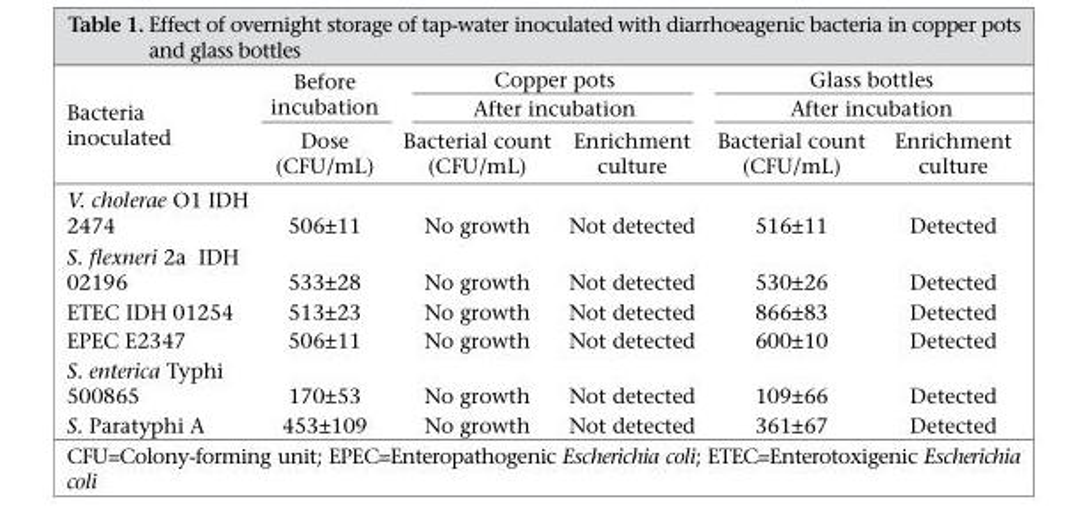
<table><thead><tr><td rowspan="3">Bacteria inoculated</td><td rowspan="3">Before incubation Dose (CFU/mL)</td><td rowspan="2" colspan="2">Copper pots After incubation</td><td rowspan="2" colspan="2">Glass bottles After incubation</td></tr><tr></tr><tr><td>Bacterial count (CFU/mL)</td><td>Enrichment culture</td><td>Bacterial count (CFU/mL)</td><td>Enrichment culture</td></tr></thead><tbody><tr><td>V. cholerae O1 IDH 2474</td><td>506±11</td><td>No growth</td><td>Not detected</td><td>516±11</td><td>Detected</td></tr><tr><td>S. flexneri 2a IDH 02196</td><td>533±28</td><td>No growth</td><td>Not detected</td><td>530±26</td><td>Detected</td></tr><tr><td>ETEC IDH 01254</td><td>513±23</td><td>No growth</td><td>Not detected</td><td>866±83</td><td>Detected</td></tr><tr><td>EPEC E2347</td><td>506±11</td><td>No growth</td><td>Not detected</td><td>600±10</td><td>Detected</td></tr><tr><td>S. enterica Typhi 500865</td><td>170±53</td><td>No growth</td><td>Not detected</td><td>109±66</td><td>Detected</td></tr><tr><td>S. Paratyphi A</td><td>453±109</td><td>No growth</td><td>Not detected</td><td>361±67</td><td>Detected</td></tr></tbody></table>